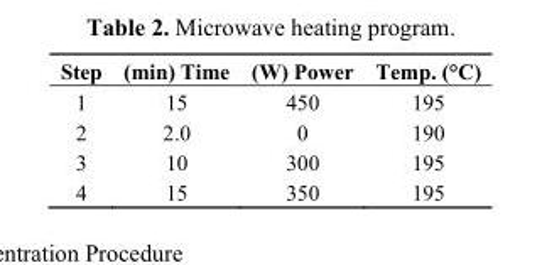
<table><thead><tr><td>Step</td><td>(min) Time</td><td>(W) Power</td><td>Temp. (°C)</td></tr></thead><tbody><tr><td>1</td><td>15</td><td>450</td><td>195</td></tr><tr><td>2</td><td>2.0</td><td>0</td><td>190</td></tr><tr><td>3</td><td>10</td><td>300</td><td>195</td></tr><tr><td>4</td><td>15</td><td>350</td><td>195</td></tr></tbody></table>